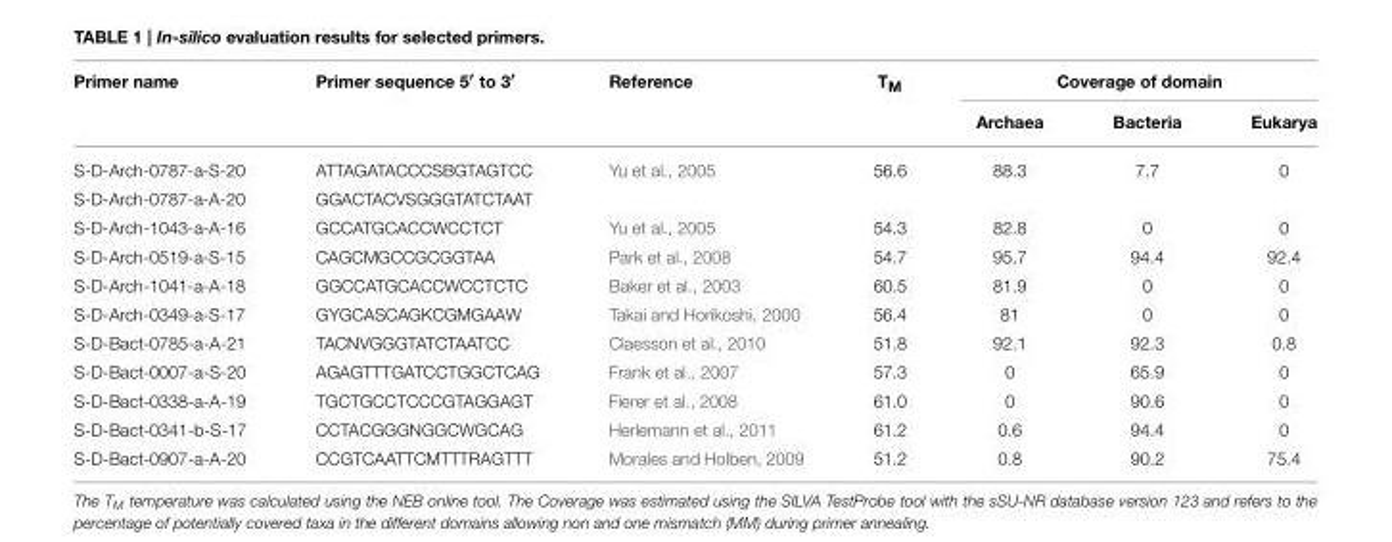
<table><thead><tr><td rowspan="2">Primer name</td><td rowspan="2">Primer sequence 5′ to 3′</td><td rowspan="2">Reference</td><td rowspan="2">T<sub>M</sub></td><td colspan="3">Coverage of domain</td></tr><tr><td>Archaea</td><td>Bacteria</td><td>Eukarya</td></tr></thead><tbody><tr><td>S-D-Arch-0787-a-S-20</td><td>ATTAGATACCCSBGTAGTCC</td><td>Yu et al., 2005</td><td>56.6</td><td>88.3</td><td>7.7</td><td>0</td></tr><tr><td>S-D-Arch-0787-a-A-20</td><td>GGACTACVSGGGTATCTAAT</td><td></td><td></td><td></td><td></td><td></td></tr><tr><td>S-D-Arch-1043-a-A-16</td><td>GCCATGCACCWCCTCT</td><td>Yu et al., 2005</td><td>54.3</td><td>82.8</td><td>0</td><td>0</td></tr><tr><td>S-D-Arch-0519-a-S-15</td><td>CAGCMGCCGCGGTAA</td><td>Park et al., 2008</td><td>54.7</td><td>95.7</td><td>94.4</td><td>92.4</td></tr><tr><td>S-D-Arch-1041-a-A-18</td><td>GGCCATGCACCWCCTCTC</td><td>Baker et al., 2003</td><td>60.5</td><td>81.9</td><td>0</td><td>0</td></tr><tr><td>S-D-Arch-0349-a-S-17</td><td>GYGCASCAGKCGMGAAW</td><td>Takai and Horikoshi, 2000</td><td>56.4</td><td>81</td><td>0</td><td>0</td></tr><tr><td>S-D-Bact-0785-a-A-21</td><td>TACNVGGGTATCTAATCC</td><td>Claesson et al., 2010</td><td>51.8</td><td>92.1</td><td>92.3</td><td>0.8</td></tr><tr><td>S-D-Bact-0007-a-S-20</td><td>AGAGTTTGATCCTGGCTCAG</td><td>Frank et al., 2007</td><td>57.3</td><td>0</td><td>65.9</td><td>0</td></tr><tr><td>S-D-Bact-0338-a-A-19</td><td>TGCTGCCTCCCGTAGGAGT</td><td>Fierer et al., 2008</td><td>61.0</td><td>0</td><td>90.6</td><td>0</td></tr><tr><td>S-D-Bact-0341-b-S-17</td><td>CCTACGGGNGGCWGCAG</td><td>Herlemann et al., 2011</td><td>61.2</td><td>0.6</td><td>94.4</td><td>0</td></tr><tr><td>S-D-Bact-0907-a-A-20</td><td>CCGTCAATTCMTTTRAGTTT</td><td>Morales and Holben, 2009</td><td>51.2</td><td>0.8</td><td>90.2</td><td>75.4</td></tr></tbody></table>